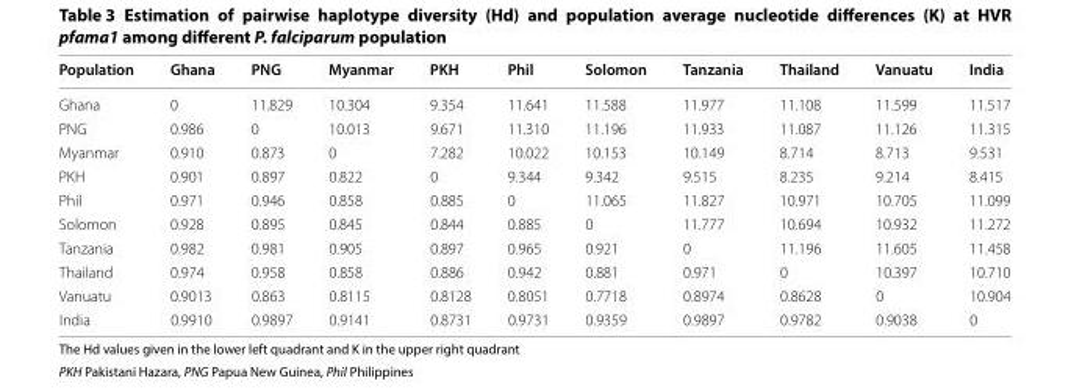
<table><thead><tr><td>Population</td><td>Ghana</td><td>PNG</td><td>Myanmar</td><td>PKH</td><td>Phil</td><td>Solomon</td><td>Tanzania</td><td>Thailand</td><td>Vanuatu</td><td>India</td></tr></thead><tbody><tr><td>Ghana</td><td>0</td><td>11.829</td><td>10.304</td><td>9.354</td><td>11.641</td><td>11.588</td><td>11.977</td><td>11.108</td><td>11.599</td><td>11.517</td></tr><tr><td>PNG</td><td>0.986</td><td>0</td><td>10.013</td><td>9.671</td><td>11.310</td><td>11.196</td><td>11.933</td><td>11.087</td><td>11.126</td><td>11.315</td></tr><tr><td>Myanmar</td><td>0.910</td><td>0.873</td><td>0</td><td>7.282</td><td>10.022</td><td>10.153</td><td>10.149</td><td>8.714</td><td>8.713</td><td>9.531</td></tr><tr><td>PKH</td><td>0.901</td><td>0.897</td><td>0.822</td><td>0</td><td>9.344</td><td>9.342</td><td>9.515</td><td>8.235</td><td>9.214</td><td>8.415</td></tr><tr><td>Phil</td><td>0.971</td><td>0.946</td><td>0.858</td><td>0.885</td><td>0</td><td>11.065</td><td>11.827</td><td>10.971</td><td>10.705</td><td>11.099</td></tr><tr><td>Solomon</td><td>0.928</td><td>0.895</td><td>0.845</td><td>0.844</td><td>0.885</td><td>0</td><td>11.777</td><td>10.694</td><td>10.932</td><td>11.272</td></tr><tr><td>Tanzania</td><td>0.982</td><td>0.981</td><td>0.905</td><td>0.897</td><td>0.965</td><td>0.921</td><td>0</td><td>11.196</td><td>11.605</td><td>11.458</td></tr><tr><td>Thailand</td><td>0.974</td><td>0.958</td><td>0.858</td><td>0.886</td><td>0.942</td><td>0.881</td><td>0.971</td><td>0</td><td>10.397</td><td>10.710</td></tr><tr><td>Vanuatu</td><td>0.9013</td><td>0.863</td><td>0.8115</td><td>0.8128</td><td>0.8051</td><td>0.7718</td><td>0.8974</td><td>0.8628</td><td>0</td><td>10.904</td></tr><tr><td>India</td><td>0.9910</td><td>0.9897</td><td>0.9141</td><td>0.8731</td><td>0.9731</td><td>0.9359</td><td>0.9897</td><td>0.9782</td><td>0.9038</td><td>0</td></tr></tbody></table>